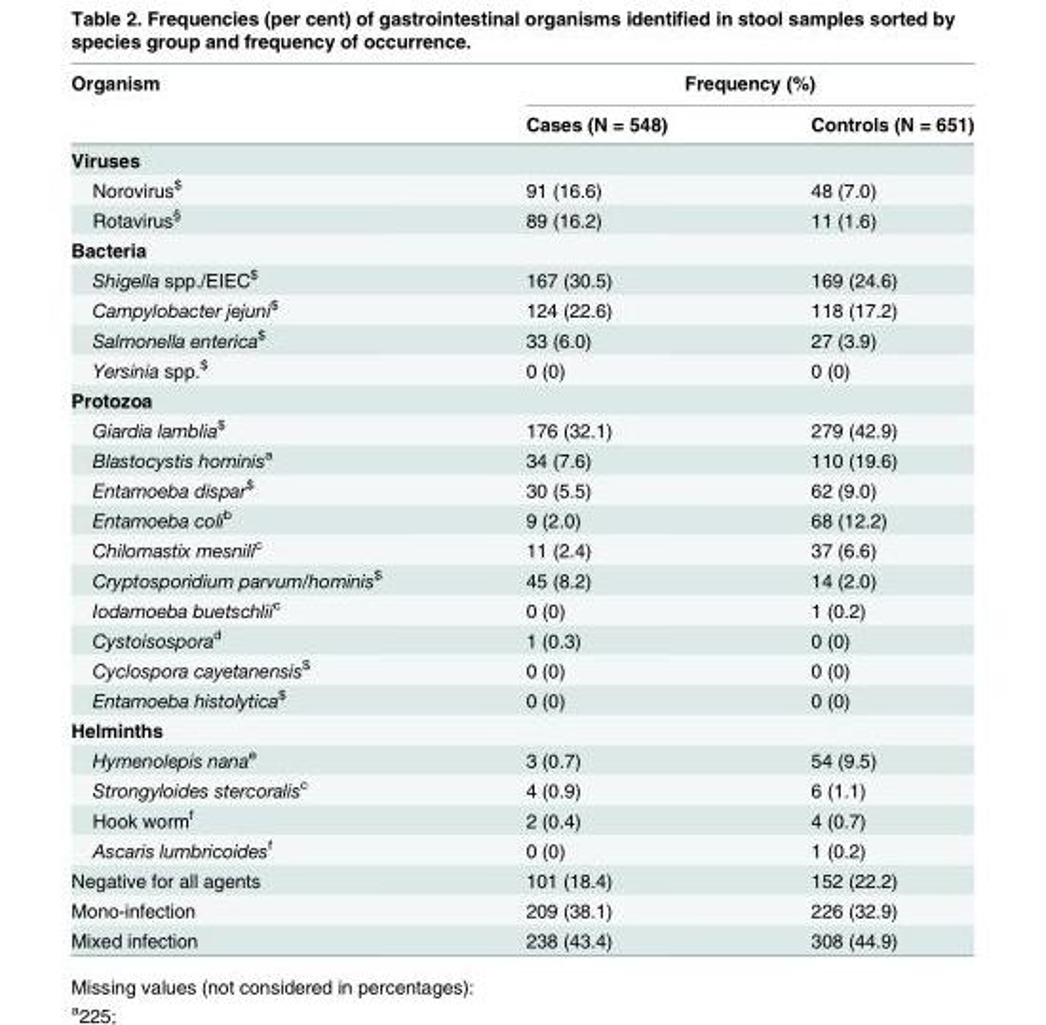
<table><thead><tr><td rowspan="2">Organism</td><td colspan="2">Frequency (%)</td></tr><tr><td>Cases (N = 548)</td><td>Controls (N = 651)</td></tr></thead><tbody><tr><td colspan="3">Viruses</td></tr><tr><td>Norovirus<sup>$</sup></td><td>91 (16.6)</td><td>48 (7.0)</td></tr><tr><td>Rotavirus<sup>§</sup></td><td>89 (16.2)</td><td>11 (1.6)</td></tr><tr><td colspan="3">Bacteria</td></tr><tr><td>Shigella spp./EIEC<sup>$</sup></td><td>167 (30.5)</td><td>169 (24.6)</td></tr><tr><td>Campylobacter jejuni<sup>$</sup></td><td>124 (22.6)</td><td>118 (17.2)</td></tr><tr><td>Salmonella enterica<sup>$</sup></td><td>33 (6.0)</td><td>27 (3.9)</td></tr><tr><td>Yersinia spp.<sup>$</sup></td><td>0 (0)</td><td>0 (0)</td></tr><tr><td colspan="3">Protozoa</td></tr><tr><td>Giardia lamblia<sup>$</sup></td><td>176 (32.1)</td><td>279 (42.9)</td></tr><tr><td>Blastocystis hominis<sup>a</sup></td><td>34 (7.6)</td><td>110 (19.6)</td></tr><tr><td>Entamoeba dispar<sup>$</sup></td><td>30 (5.5)</td><td>62 (9.0)</td></tr><tr><td>Entamoeba coli<sup>b</sup></td><td>9 (2.0)</td><td>68 (12.2)</td></tr><tr><td>Chilomastix mesnili<sup>c</sup></td><td>11 (2.4)</td><td>37 (6.6)</td></tr><tr><td>Cryptosporidium parvum/hominis<sup>$</sup></td><td>45 (8.2)</td><td>14 (2.0)</td></tr><tr><td>Iodamoeba buetschlii<sup>c</sup></td><td>0 (0)</td><td>1 (0.2)</td></tr><tr><td>Cystoisospora<sup>d</sup></td><td>1 (0.3)</td><td>0 (0)</td></tr><tr><td>Cyclospora cayetanensis<sup>$</sup></td><td>0 (0)</td><td>0 (0)</td></tr><tr><td>Entamoeba histolytica<sup>$</sup></td><td>0 (0)</td><td>0 (0)</td></tr><tr><td colspan="3">Helminths</td></tr><tr><td>Hymenolepis nana<sup>e</sup></td><td>3 (0.7)</td><td>54 (9.5)</td></tr><tr><td>Strongyloides stercoralis<sup>c</sup></td><td>4 (0.9)</td><td>6 (1.1)</td></tr><tr><td>Hook worm<sup>f</sup></td><td>2 (0.4)</td><td>4 (0.7)</td></tr><tr><td>Ascaris lumbricoides<sup>f</sup></td><td>0 (0)</td><td>1 (0.2)</td></tr><tr><td>Negative for all agents</td><td>101 (18.4)</td><td>152 (22.2)</td></tr><tr><td>Mono-infection</td><td>209 (38.1)</td><td>226 (32.9)</td></tr><tr><td>Mixed infection</td><td>238 (43.4)</td><td>308 (44.9)</td></tr></tbody></table>